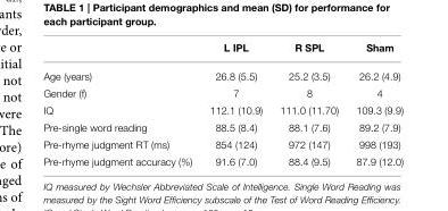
<table><thead><tr><td></td><td>L IPL</td><td>R SPL</td><td>Sham</td></tr></thead><tbody><tr><td>Age (years)</td><td>26.8 (5.5)</td><td>25.2 (3.5)</td><td>26.2 (4.9)</td></tr><tr><td>Gender (f)</td><td>7</td><td>8</td><td>4</td></tr><tr><td>IQ</td><td>112.1 (10.9)</td><td>111.0 (11.70)</td><td>109.3 (9.9)</td></tr><tr><td>Pre-single word reading</td><td>88.5 (8.4)</td><td>88.1 (7.6)</td><td>89.2 (7.9)</td></tr><tr><td>Pre-rhyme judgment RT (ms)</td><td>854 (124)</td><td>972 (147)</td><td>998 (193)</td></tr><tr><td>Pre-rhyme judgment accuracy (%)</td><td>91.6 (7.0)</td><td>88.4 (9.5)</td><td>87.9 (12.0)</td></tr></tbody></table>